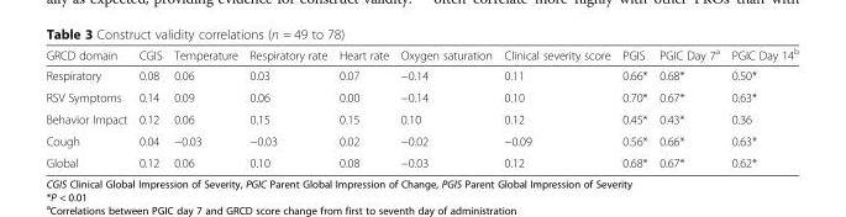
<table><thead><tr><td>GRCD domain</td><td>CGIS</td><td>Temperature</td><td>Respiratory rate</td><td>Heart rate</td><td>Oxygen saturation</td><td>Clinical severity score</td><td>PGIS</td><td>PGIC Day 7<sup>a</sup></td><td>PGIC Day 14<sup>b</sup></td></tr></thead><tbody><tr><td>Respiratory</td><td>0.08</td><td>0.06</td><td>0.03</td><td>0.07</td><td>−0.14</td><td>0.11</td><td>0.66*</td><td>0.68*</td><td>0.50*</td></tr><tr><td>RSV Symptoms</td><td>0.14</td><td>0.09</td><td>0.06</td><td>0.00</td><td>−0.14</td><td>0.10</td><td>0.70*</td><td>0.67*</td><td>0.63*</td></tr><tr><td>Behavior Impact</td><td>0.12</td><td>0.06</td><td>0.15</td><td>0.15</td><td>0.10</td><td>0.12</td><td>0.45*</td><td>0.43*</td><td>0.36</td></tr><tr><td>Cough</td><td>0.04</td><td>−0.03</td><td>−0.03</td><td>0.02</td><td>−0.02</td><td>−0.09</td><td>0.56*</td><td>0.66*</td><td>0.63*</td></tr><tr><td>Global</td><td>0.12</td><td>0.06</td><td>0.10</td><td>0.08</td><td>−0.03</td><td>0.12</td><td>0.68*</td><td>0.67*</td><td>0.62*</td></tr></tbody></table>